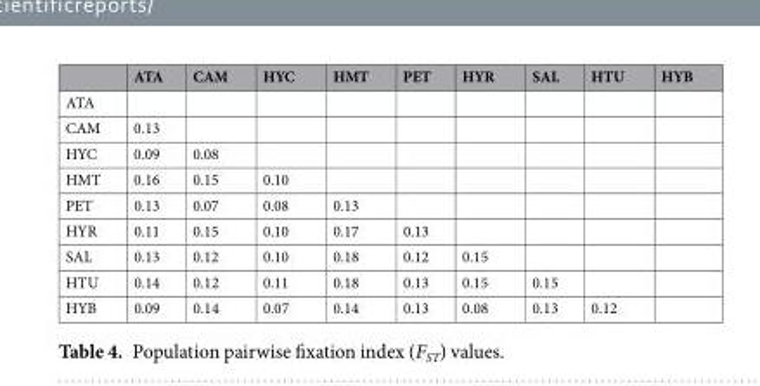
<table><thead><tr><td></td><td>ATA</td><td>CAM</td><td>HYC</td><td>HMT</td><td>PET</td><td>HYR</td><td>SAL</td><td>HTU</td><td>HYB</td></tr></thead><tbody><tr><td colspan="10">ATA</td></tr><tr><td>CAM</td><td>0.13</td><td></td><td></td><td></td><td></td><td></td><td></td><td></td><td></td></tr><tr><td>HYC</td><td>0.09</td><td>0.08</td><td></td><td></td><td></td><td></td><td></td><td></td><td></td></tr><tr><td>HMT</td><td>0.16</td><td>0.15</td><td>0.10</td><td></td><td></td><td></td><td></td><td></td><td></td></tr><tr><td>PET</td><td>0.13</td><td>0.07</td><td>0.08</td><td>0.13</td><td></td><td></td><td></td><td></td><td></td></tr><tr><td>HYR</td><td>0.11</td><td>0.15</td><td>0.10</td><td>0.17</td><td>0.13</td><td></td><td></td><td></td><td></td></tr><tr><td>SAL</td><td>0.13</td><td>0.12</td><td>0.10</td><td>0.18</td><td>0.12</td><td>0.15</td><td></td><td></td><td></td></tr><tr><td>HTU</td><td>0.14</td><td>0.12</td><td>0.11</td><td>0.18</td><td>0.13</td><td>0.15</td><td>0.15</td><td></td><td></td></tr><tr><td>HYB</td><td>0.09</td><td>0.14</td><td>0.07</td><td>0.14</td><td>0.13</td><td>0.08</td><td>0.13</td><td>0.12</td><td></td></tr></tbody></table>